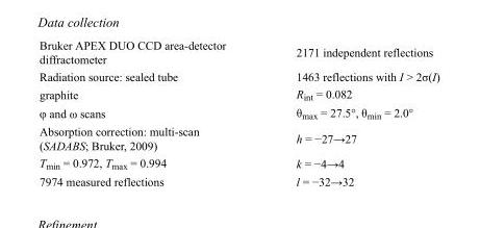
<table><tbody><tr><td>Bruker APEX DUO CCD area-detector diffractometer</td><td>2171 independent reflections</td></tr><tr><td>Radiation source: sealed tube</td><td>1463 reflections with I &gt; 2σ(I)</td></tr><tr><td>graphite</td><td>R<sub>int</sub> = 0.082</td></tr><tr><td>φ and ω scans</td><td>θ<sub>max</sub> = 27.5°, θ<sub>min</sub> = 2.0°</td></tr><tr><td>Absorption correction: multi-scan (SADABS; Bruker, 2009)</td><td>h = −27→27</td></tr><tr><td>T<sub>min</sub> = 0.972, T<sub>max</sub> = 0.994</td><td>k = −4→4</td></tr><tr><td>7974 measured reflections</td><td>l = −32→32</td></tr></tbody></table>